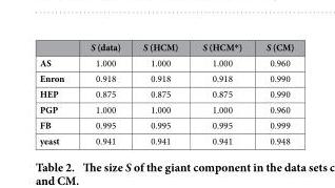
<table><thead><tr><td></td><td>S (data)</td><td>S (HCM)</td><td>S (HCM*)</td><td>S (CM)</td></tr></thead><tbody><tr><td>AS</td><td>1.000</td><td>1.000</td><td>1.000</td><td>0.960</td></tr><tr><td>Enron</td><td>0.918</td><td>0.918</td><td>0.918</td><td>0.990</td></tr><tr><td>HEP</td><td>0.875</td><td>0.875</td><td>0.875</td><td>0.990</td></tr><tr><td>PGP</td><td>1.000</td><td>1.000</td><td>1.000</td><td>0.960</td></tr><tr><td>FB</td><td>0.995</td><td>0.995</td><td>0.995</td><td>0.999</td></tr><tr><td>yeast</td><td>0.941</td><td>0.941</td><td>0.941</td><td>0.948</td></tr></tbody></table>